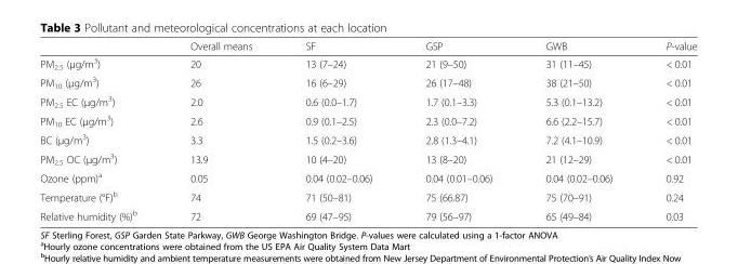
<table><thead><tr><td></td><td>Overall means</td><td>SF</td><td>GSP</td><td>GWB</td><td>P-value</td></tr></thead><tbody><tr><td>PM<sub>2.5</sub> (μg/m<sup>3</sup>)</td><td>20</td><td>13 (7–24)</td><td>21 (9–50)</td><td>31 (11–45)</td><td>&lt; 0.01</td></tr><tr><td>PM<sub>10</sub> (μg/m<sup>3</sup>)</td><td>26</td><td>16 (6–29)</td><td>26 (17–48)</td><td>38 (21–50)</td><td>&lt; 0.01</td></tr><tr><td>PM<sub>2.5</sub> EC (μg/m<sup>3</sup>)</td><td>2.0</td><td>0.6 (0.0–1.7)</td><td>1.7 (0.1–3.3)</td><td>5.3 (0.1–13.2)</td><td>&lt; 0.01</td></tr><tr><td>PM<sub>10</sub> EC (μg/m<sup>3</sup>)</td><td>2.6</td><td>0.9 (0.1–2.5)</td><td>2.3 (0.0–7.2)</td><td>6.6 (2.2–15.7)</td><td>&lt; 0.01</td></tr><tr><td>BC (μg/m<sup>3</sup>)</td><td>3.3</td><td>1.5 (0.2–3.6)</td><td>2.8 (1.3–4.1)</td><td>7.2 (4.1–10.9)</td><td>&lt; 0.01</td></tr><tr><td>PM<sub>2.5</sub> OC (μg/m<sup>3</sup>)</td><td>13.9</td><td>10 (4–20)</td><td>13 (8–20)</td><td>21 (12–29)</td><td>&lt; 0.01</td></tr><tr><td>Ozone (ppm)<sup>a</sup></td><td>0.05</td><td>0.04 (0.02–0.06)</td><td>0.04 (0.01–0.06)</td><td>0.04 (0.02–0.06)</td><td>0.92</td></tr><tr><td>Temperature (°F)<sup>b</sup></td><td>74</td><td>71 (50–81)</td><td>75 (66.87)</td><td>75 (70–91)</td><td>0.24</td></tr><tr><td>Relative humidity (%)<sup>b</sup></td><td>72</td><td>69 (47–95)</td><td>79 (56–97)</td><td>65 (49–84)</td><td>0.03</td></tr></tbody></table>